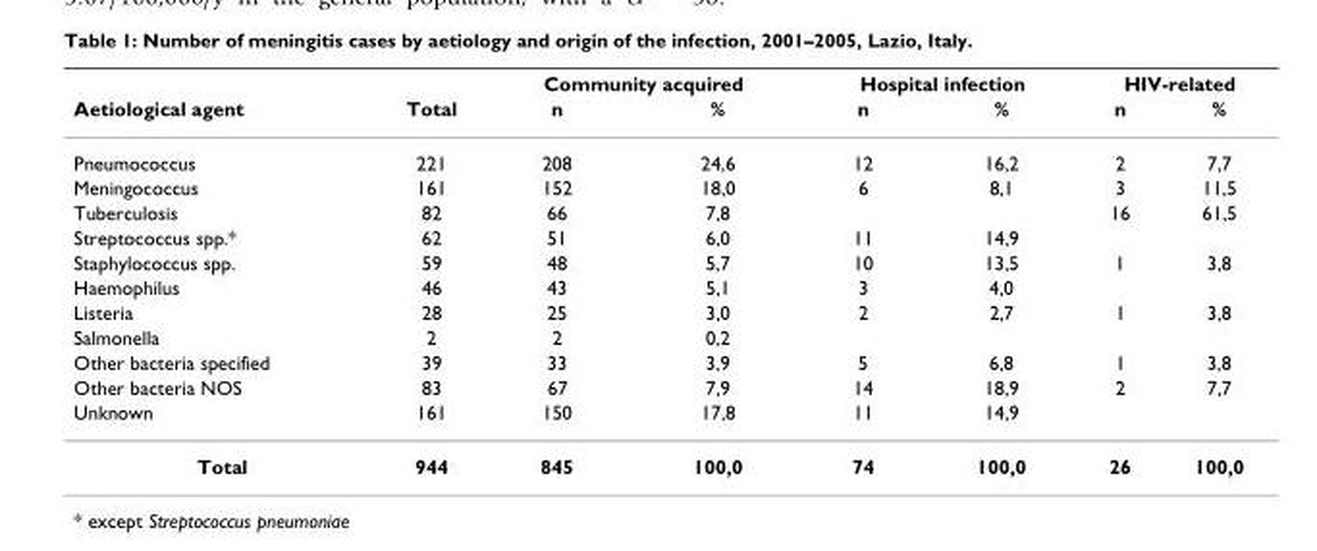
<table><thead><tr><td rowspan="2">Aetiological agent</td><td rowspan="2">Total</td><td colspan="2">Community acquired</td><td colspan="2">Hospital infection</td><td colspan="2">HIV-related</td></tr><tr><td>n</td><td>%</td><td>n</td><td>%</td><td>n</td><td>%</td></tr></thead><tbody><tr><td>Pneumococcus</td><td>221</td><td>208</td><td>24,6</td><td>12</td><td>16,2</td><td>2</td><td>7,7</td></tr><tr><td>Meningococcus</td><td>161</td><td>152</td><td>18,0</td><td>6</td><td>8,1</td><td>3</td><td>11,5</td></tr><tr><td>Tuberculosis</td><td>82</td><td>66</td><td>7,8</td><td></td><td></td><td>16</td><td>61,5</td></tr><tr><td>Streptococcus spp.*</td><td>62</td><td>51</td><td>6,0</td><td>11</td><td>14,9</td><td></td><td></td></tr><tr><td>Staphylococcus spp.</td><td>59</td><td>48</td><td>5,7</td><td>10</td><td>13,5</td><td>1</td><td>3,8</td></tr><tr><td>Haemophilus</td><td>46</td><td>43</td><td>5,1</td><td>3</td><td>4,0</td><td></td><td></td></tr><tr><td>Listeria</td><td>28</td><td>25</td><td>3,0</td><td>2</td><td>2,7</td><td>1</td><td>3,8</td></tr><tr><td>Salmonella</td><td>2</td><td>2</td><td>0,2</td><td></td><td></td><td></td><td></td></tr><tr><td>Other bacteria specified</td><td>39</td><td>33</td><td>3,9</td><td>5</td><td>6,8</td><td>1</td><td>3,8</td></tr><tr><td>Other bacteria NOS</td><td>83</td><td>67</td><td>7,9</td><td>14</td><td>18,9</td><td>2</td><td>7,7</td></tr><tr><td>Unknown</td><td>161</td><td>150</td><td>17,8</td><td>11</td><td>14,9</td><td></td><td></td></tr><tr><td>Total</td><td>944</td><td>845</td><td>100,0</td><td>74</td><td>100,0</td><td>26</td><td>100,0</td></tr></tbody></table>